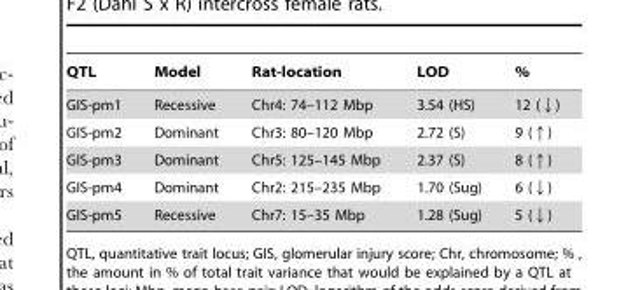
<table><thead><tr><td>QTL</td><td>Model</td><td>Rat-location</td><td>LOD</td><td>%</td></tr></thead><tbody><tr><td>GIS-pm1</td><td>Recessive</td><td>Chr4: 74–112 Mbp</td><td>3.54 (HS)</td><td>12 (↓)</td></tr><tr><td>GIS-pm2</td><td>Dominant</td><td>Chr3: 80–120 Mbp</td><td>2.72 (S)</td><td>9 (↑)</td></tr><tr><td>GIS-pm3</td><td>Dominant</td><td>Chr5: 125–145 Mbp</td><td>2.37 (S)</td><td>8 (↑)</td></tr><tr><td>GIS-pm4</td><td>Dominant</td><td>Chr2: 215–235 Mbp</td><td>1.70 (Sug)</td><td>6 (↓)</td></tr><tr><td>GIS-pm5</td><td>Recessive</td><td>Chr7: 15–35 Mbp</td><td>1.28 (Sug)</td><td>5 (↓)</td></tr></tbody></table>